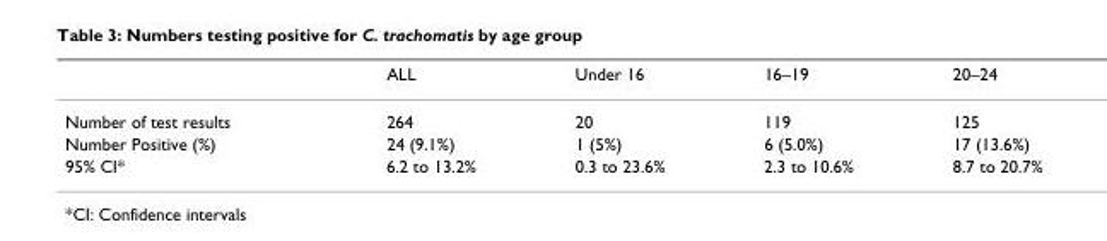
<table><thead><tr><td></td><td>ALL</td><td>Under 16</td><td>16–19</td><td>20–24</td></tr></thead><tbody><tr><td>Number of test results</td><td>264</td><td>20</td><td>119</td><td>125</td></tr><tr><td>Number Positive (%)</td><td>24 (9.1%)</td><td>1 (5%)</td><td>6 (5.0%)</td><td>17 (13.6%)</td></tr><tr><td>95% CI*</td><td>6.2 to 13.2%</td><td>0.3 to 23.6%</td><td>2.3 to 10.6%</td><td>8.7 to 20.7%</td></tr></tbody></table>